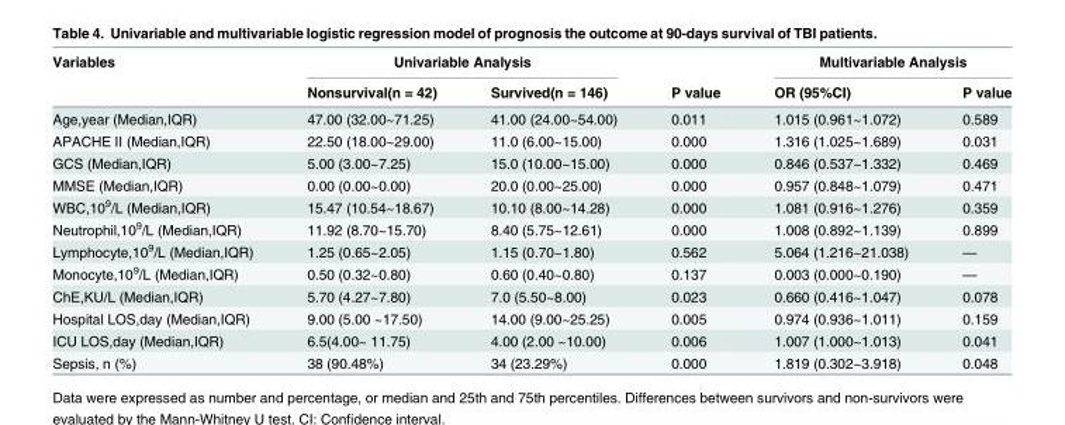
<table><thead><tr><td rowspan="2">Variables</td><td colspan="2">Univariable Analysis</td><td rowspan="2">P value</td><td colspan="2">Multivariable Analysis</td></tr><tr><td>Nonsurvival(n = 42)</td><td>Survived(n = 146)</td><td>OR (95%CI)</td><td>P value</td></tr></thead><tbody><tr><td>Age,year (Median,IQR)</td><td>47.00 (32.00~71.25)</td><td>41.00 (24.00~54.00)</td><td>0.011</td><td>1.015 (0.961~1.072)</td><td>0.589</td></tr><tr><td>APACHE II (Median,IQR)</td><td>22.50 (18.00~29.00)</td><td>11.0 (6.00~15.00)</td><td>0.000</td><td>1.316 (1.025~1.689)</td><td>0.031</td></tr><tr><td>GCS (Median,IQR)</td><td>5.00 (3.00~7.25)</td><td>15.0 (10.00~15.00)</td><td>0.000</td><td>0.846 (0.537~1.332)</td><td>0.469</td></tr><tr><td>MMSE (Median,IQR)</td><td>0.00 (0.00~0.00)</td><td>20.0 (0.00~25.00)</td><td>0.000</td><td>0.957 (0.848~1.079)</td><td>0.471</td></tr><tr><td>WBC,10<sup>9</sup>/L (Median,IQR)</td><td>15.47 (10.54~18.67)</td><td>10.10 (8.00~14.28)</td><td>0.000</td><td>1.081 (0.916~1.276)</td><td>0.359</td></tr><tr><td>Neutrophil,10<sup>9</sup>/L (Median,IQR)</td><td>11.92 (8.70~15.70)</td><td>8.40 (5.75~12.61)</td><td>0.000</td><td>1.008 (0.892~1.139)</td><td>0.899</td></tr><tr><td>Lymphocyte,10<sup>9</sup>/L (Median,IQR)</td><td>1.25 (0.65~2.05)</td><td>1.15 (0.70~1.80)</td><td>0.562</td><td>5.064 (1.216~21.038)</td><td>—</td></tr><tr><td>Monocyte,10<sup>9</sup>/L (Median,IQR)</td><td>0.50 (0.32~0.80)</td><td>0.60 (0.40~0.80)</td><td>0.137</td><td>0.003 (0.000~0.190)</td><td>—</td></tr><tr><td>ChE,KU/L (Median,IQR)</td><td>5.70 (4.27~7.80)</td><td>7.0 (5.50~8.00)</td><td>0.023</td><td>0.660 (0.416~1.047)</td><td>0.078</td></tr><tr><td>Hospital LOS,day (Median,IQR)</td><td>9.00 (5.00 ~17.50)</td><td>14.00 (9.00~25.25)</td><td>0.005</td><td>0.974 (0.936~1.011)</td><td>0.159</td></tr><tr><td>ICU LOS,day (Median,IQR)</td><td>6.5(4.00~ 11.75)</td><td>4.00 (2.00 ~10.00)</td><td>0.006</td><td>1.007 (1.000~1.013)</td><td>0.041</td></tr><tr><td>Sepsis, n (%)</td><td>38 (90.48%)</td><td>34 (23.29%)</td><td>0.000</td><td>1.819 (0.302~3.918)</td><td>0.048</td></tr></tbody></table>